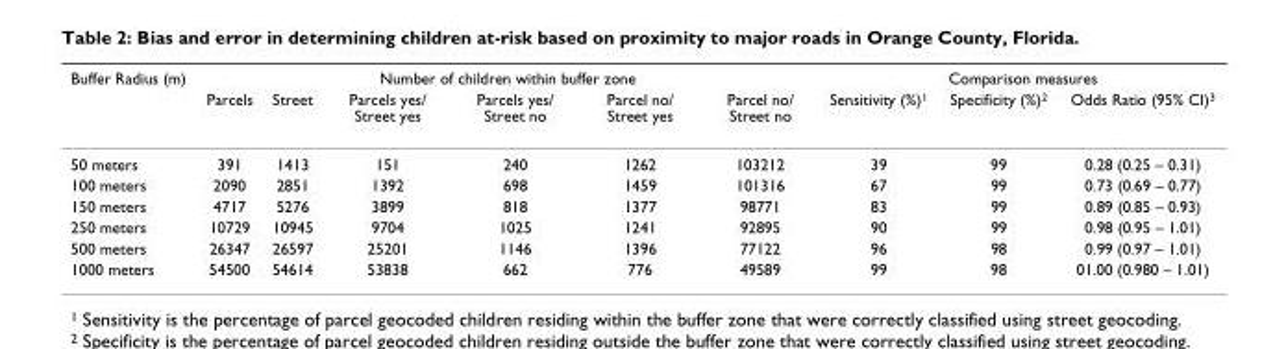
<table><thead><tr><td rowspan="2">Buffer Radius (m)</td><td colspan="6">Number of children within buffer zone</td><td colspan="3">Comparison measures</td></tr><tr><td>Parcels</td><td>Street</td><td>Parcels yes/ Street yes</td><td>Parcels yes/ Street no</td><td>Parcel no/ Street yes</td><td>Parcel no/ Street no</td><td>Sensitivity (%)<sup>1</sup></td><td>Specificity (%)<sup>2</sup></td><td>Odds Ratio (95% CI)<sup>3</sup></td></tr></thead><tbody><tr><td>50 meters</td><td>391</td><td>1413</td><td>151</td><td>240</td><td>1262</td><td>103212</td><td>39</td><td>99</td><td>0.28 (0.25 – 0.31)</td></tr><tr><td>100 meters</td><td>2090</td><td>2851</td><td>1392</td><td>698</td><td>1459</td><td>101316</td><td>67</td><td>99</td><td>0.73 (0.69 – 0.77)</td></tr><tr><td>150 meters</td><td>4717</td><td>5276</td><td>3899</td><td>818</td><td>1377</td><td>98771</td><td>83</td><td>99</td><td>0.89 (0.85 – 0.93)</td></tr><tr><td>250 meters</td><td>10729</td><td>10945</td><td>9704</td><td>1025</td><td>1241</td><td>92895</td><td>90</td><td>99</td><td>0.98 (0.95 – 1.01)</td></tr><tr><td>500 meters</td><td>26347</td><td>26597</td><td>25201</td><td>1146</td><td>1396</td><td>77122</td><td>96</td><td>98</td><td>0.99 (0.97 – 1.01)</td></tr><tr><td>1000 meters</td><td>54500</td><td>54614</td><td>53838</td><td>662</td><td>776</td><td>49589</td><td>99</td><td>98</td><td>01.00 (0.980 – 1.01)</td></tr></tbody></table>